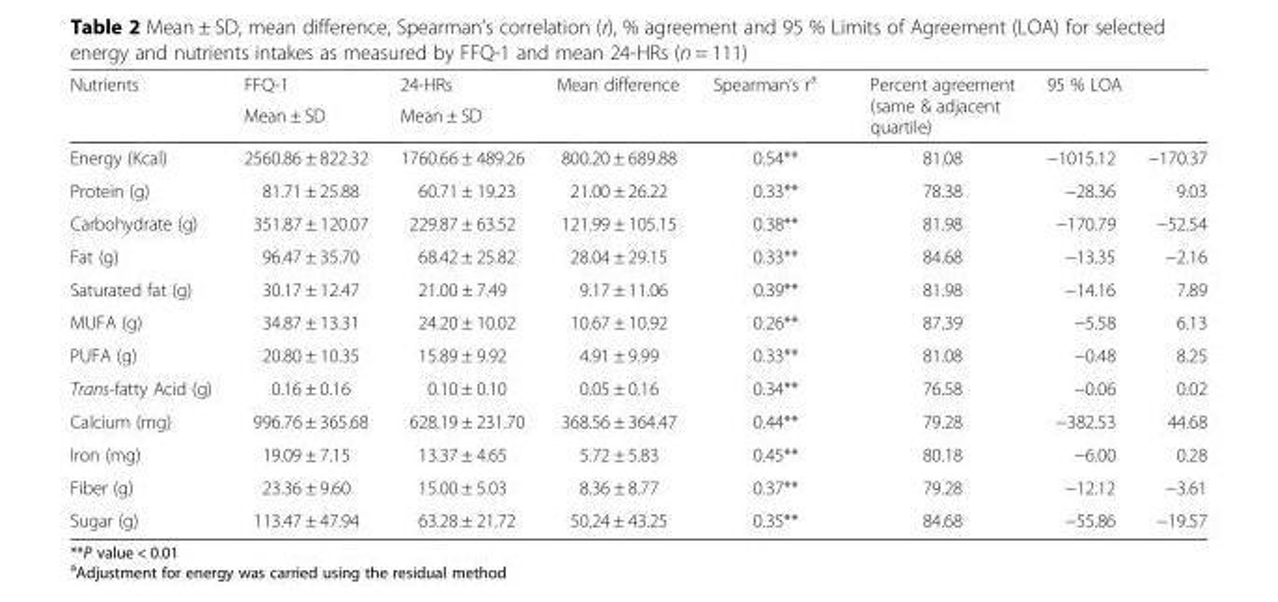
<table><thead><tr><td rowspan="3">Nutrients Energy (Kcal)</td><td rowspan="3">FFQ-1 Mean ± SD 2560.86 ± 822.32</td><td rowspan="3">24-HRs Mean ± SD 1760.66 ± 489.26</td><td rowspan="3">Mean difference 800.20 ± 689.88</td><td rowspan="3">Spearman’s r<sup>a</sup> 0.54**</td><td rowspan="3">Percent agreement (same &amp; adjacent quartile) 81.08</td><td rowspan="2" colspan="2">95 % LOA</td></tr><tr></tr><tr><td>−1015.12</td><td>−170.37</td></tr></thead><tbody><tr><td>Protein (g)</td><td>81.71 ± 25.88</td><td>60.71 ± 19.23</td><td>21.00 ± 26.22</td><td>0.33**</td><td>78.38</td><td>−28.36</td><td>9.03</td></tr><tr><td>Carbohydrate (g)</td><td>351.87 ± 120.07</td><td>229.87 ± 63.52</td><td>121.99 ± 105.15</td><td>0.38**</td><td>81.98</td><td>−170.79</td><td>−52.54</td></tr><tr><td>Fat (g)</td><td>96.47 ± 35.70</td><td>68.42 ± 25.82</td><td>28.04 ± 29.15</td><td>0.33**</td><td>84.68</td><td>−13.35</td><td>−2.16</td></tr><tr><td>Saturated fat (g)</td><td>30.17 ± 12.47</td><td>21.00 ± 7.49</td><td>9.17 ± 11.06</td><td>0.39**</td><td>81.98</td><td>−14.16</td><td>7.89</td></tr><tr><td>MUFA (g)</td><td>34.87 ± 13.31</td><td>24.20 ± 10.02</td><td>10.67 ± 10.92</td><td>0.26**</td><td>87.39</td><td>−5.58</td><td>6.13</td></tr><tr><td>PUFA (g)</td><td>20.80 ± 10.35</td><td>15.89 ± 9.92</td><td>4.91 ± 9.99</td><td>0.33**</td><td>81.08</td><td>−0.48</td><td>8.25</td></tr><tr><td>Trans-fatty Acid (g)</td><td>0.16 ± 0.16</td><td>0.10 ± 0.10</td><td>0.05 ± 0.16</td><td>0.34**</td><td>76.58</td><td>−0.06</td><td>0.02</td></tr><tr><td>Calcium (mg)</td><td>996.76 ± 365.68</td><td>628.19 ± 231.70</td><td>368.56 ± 364.47</td><td>0.44**</td><td>79.28</td><td>−382.53</td><td>44.68</td></tr><tr><td>Iron (mg)</td><td>19.09 ± 7.15</td><td>13.37 ± 4.65</td><td>5.72 ± 5.83</td><td>0.45**</td><td>80.18</td><td>−6.00</td><td>0.28</td></tr><tr><td>Fiber (g)</td><td>23.36 ± 9.60</td><td>15.00 ± 5.03</td><td>8.36 ± 8.77</td><td>0.37**</td><td>79.28</td><td>−12.12</td><td>−3.61</td></tr><tr><td>Sugar (g)</td><td>113.47 ± 47.94</td><td>63.28 ± 21.72</td><td>50.24 ± 43.25</td><td>0.35**</td><td>84.68</td><td>−55.86</td><td>−19.57</td></tr></tbody></table>